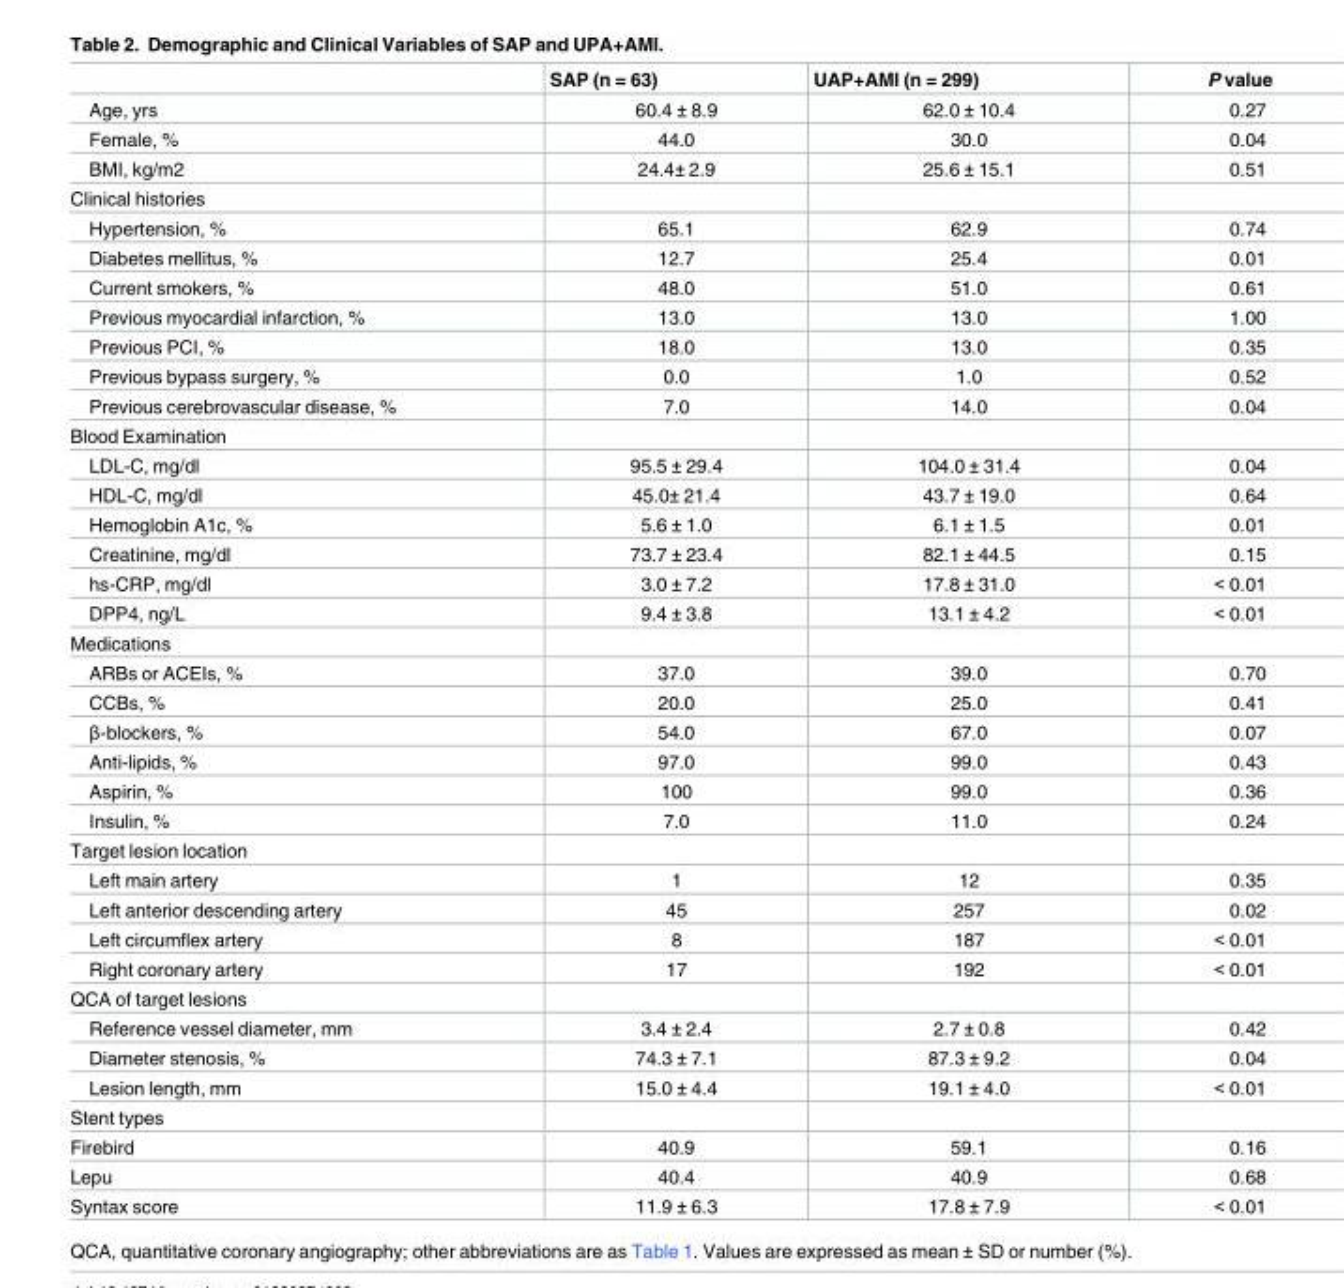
<table><thead><tr><td></td><td>SAP (n = 63)</td><td>UAP+AMI (n = 299)</td><td>P value</td></tr></thead><tbody><tr><td>Age, yrs</td><td>60.4 ± 8.9</td><td>62.0 ± 10.4</td><td>0.27</td></tr><tr><td>Female, %</td><td>44.0</td><td>30.0</td><td>0.04</td></tr><tr><td>BMI, kg/m2</td><td>24.4± 2.9</td><td>25.6 ± 15.1</td><td>0.51</td></tr><tr><td colspan="4">Clinical histories</td></tr><tr><td>Hypertension, %</td><td>65.1</td><td>62.9</td><td>0.74</td></tr><tr><td>Diabetes mellitus, %</td><td>12.7</td><td>25.4</td><td>0.01</td></tr><tr><td>Current smokers, %</td><td>48.0</td><td>51.0</td><td>0.61</td></tr><tr><td>Previous myocardial infarction, %</td><td>13.0</td><td>13.0</td><td>1.00</td></tr><tr><td>Previous PCI, %</td><td>18.0</td><td>13.0</td><td>0.35</td></tr><tr><td>Previous bypass surgery, %</td><td>0.0</td><td>1.0</td><td>0.52</td></tr><tr><td>Previous cerebrovascular disease, %</td><td>7.0</td><td>14.0</td><td>0.04</td></tr><tr><td colspan="4">Blood Examination</td></tr><tr><td>LDL-C, mg/dl</td><td>95.5 ± 29.4</td><td>104.0 ± 31.4</td><td>0.04</td></tr><tr><td>HDL-C, mg/dl</td><td>45.0± 21.4</td><td>43.7 ± 19.0</td><td>0.64</td></tr><tr><td>Hemoglobin A1c, %</td><td>5.6 ± 1.0</td><td>6.1 ± 1.5</td><td>0.01</td></tr><tr><td>Creatinine, mg/dl</td><td>73.7 ± 23.4</td><td>82.1 ± 44.5</td><td>0.15</td></tr><tr><td>hs-CRP, mg/dl</td><td>3.0 ± 7.2</td><td>17.8 ± 31.0</td><td>&lt; 0.01</td></tr><tr><td>DPP4, ng/L</td><td>9.4 ± 3.8</td><td>13.1 ± 4.2</td><td>&lt; 0.01</td></tr><tr><td colspan="4">Medications</td></tr><tr><td>ARBs or ACEIs, %</td><td>37.0</td><td>39.0</td><td>0.70</td></tr><tr><td>CCBs, %</td><td>20.0</td><td>25.0</td><td>0.41</td></tr><tr><td>β-blockers, %</td><td>54.0</td><td>67.0</td><td>0.07</td></tr><tr><td>Anti-lipids, %</td><td>97.0</td><td>99.0</td><td>0.43</td></tr><tr><td>Aspirin, %</td><td>100</td><td>99.0</td><td>0.36</td></tr><tr><td>Insulin, %</td><td>7.0</td><td>11.0</td><td>0.24</td></tr><tr><td colspan="4">Target lesion location</td></tr><tr><td>Left main artery</td><td>1</td><td>12</td><td>0.35</td></tr><tr><td>Left anterior descending artery</td><td>45</td><td>257</td><td>0.02</td></tr><tr><td>Left circumflex artery</td><td>8</td><td>187</td><td>&lt; 0.01</td></tr><tr><td>Right coronary artery</td><td>17</td><td>192</td><td>&lt; 0.01</td></tr><tr><td colspan="4">QCA of target lesions</td></tr><tr><td>Reference vessel diameter, mm</td><td>3.4 ± 2.4</td><td>2.7 ± 0.8</td><td>0.42</td></tr><tr><td>Diameter stenosis, %</td><td>74.3 ± 7.1</td><td>87.3 ± 9.2</td><td>0.04</td></tr><tr><td>Lesion length, mm</td><td>15.0 ± 4.4</td><td>19.1 ± 4.0</td><td>&lt; 0.01</td></tr><tr><td colspan="4">Stent types</td></tr><tr><td>Firebird</td><td>40.9</td><td>59.1</td><td>0.16</td></tr><tr><td>Lepu</td><td>40.4</td><td>40.9</td><td>0.68</td></tr><tr><td>Syntax score</td><td>11.9 ± 6.3</td><td>17.8 ± 7.9</td><td>&lt; 0.01</td></tr></tbody></table>